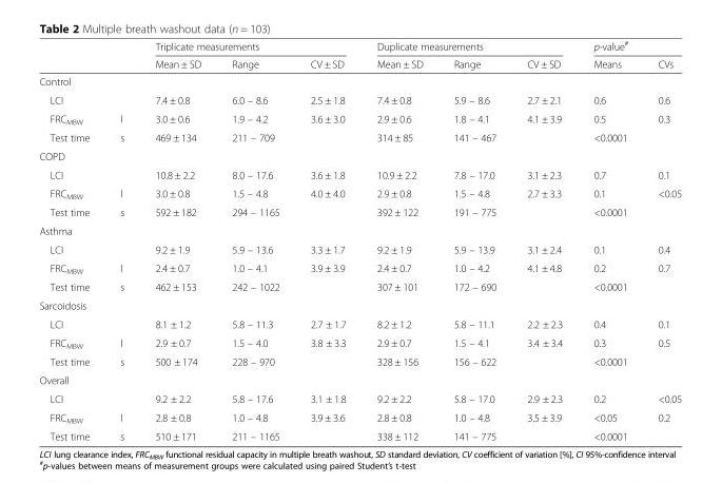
<table><thead><tr><td rowspan="2"></td><td rowspan="2"></td><td colspan="3">Triplicate measurements</td><td colspan="3">Duplicate measurements</td><td colspan="2">p-value<sup>#</sup></td></tr><tr><td>Mean ± SD</td><td>Range</td><td>CV ± SD</td><td>Mean ± SD</td><td>Range</td><td>CV ± SD</td><td>Means</td><td>CVs</td></tr></thead><tbody><tr><td colspan="10">Control</td></tr><tr><td>LCI</td><td></td><td>7.4 ± 0.8</td><td>6.0 – 8.6</td><td>2.5 ± 1.8</td><td>7.4 ± 0.8</td><td>5.9 – 8.6</td><td>2.7 ± 2.1</td><td>0.6</td><td>0.6</td></tr><tr><td>FRC<sub>MBW</sub></td><td>l</td><td>3.0 ± 0.6</td><td>1.9 – 4.2</td><td>3.6 ± 3.0</td><td>2.9 ± 0.6</td><td>1.8 – 4.1</td><td>4.1 ± 3.9</td><td>0.5</td><td>0.3</td></tr><tr><td>Test time</td><td>s</td><td>469 ± 134</td><td>211 – 709</td><td></td><td>314 ± 85</td><td>141 – 467</td><td></td><td>&lt;0.0001</td><td></td></tr><tr><td colspan="10">COPD</td></tr><tr><td>LCI</td><td></td><td>10.8 ± 2.2</td><td>8.0 – 17.6</td><td>3.6 ± 1.8</td><td>10.9 ± 2.2</td><td>7.8 – 17.0</td><td>3.1 ± 2.3</td><td>0.7</td><td>0.1</td></tr><tr><td>FRC<sub>MBW</sub></td><td>l</td><td>3.0 ± 0.8</td><td>1.5 – 4.8</td><td>4.0 ± 4.0</td><td>2.9 ± 0.8</td><td>1.5 – 4.8</td><td>2.7 ± 3.3</td><td>0.1</td><td>&lt;0.05</td></tr><tr><td>Test time</td><td>s</td><td>592 ± 182</td><td>294 – 1165</td><td></td><td>392 ± 122</td><td>191 – 775</td><td></td><td>&lt;0.0001</td><td></td></tr><tr><td colspan="10">Asthma</td></tr><tr><td>LCI</td><td></td><td>9.2 ± 1.9</td><td>5.9 – 13.6</td><td>3.3 ± 1.7</td><td>9.2 ± 1.9</td><td>5.9 – 13.9</td><td>3.1 ± 2.4</td><td>0.1</td><td>0.4</td></tr><tr><td>FRC<sub>MBW</sub></td><td>l</td><td>2.4 ± 0.7</td><td>1.0 – 4.1</td><td>3.9 ± 3.9</td><td>2.4 ± 0.7</td><td>1.0 – 4.2</td><td>4.1 ± 4.8</td><td>0.2</td><td>0.7</td></tr><tr><td>Test time</td><td>s</td><td>462 ± 153</td><td>242 – 1022</td><td></td><td>307 ± 101</td><td>172 – 690</td><td></td><td>&lt;0.0001</td><td></td></tr><tr><td colspan="10">Sarcoidosis</td></tr><tr><td>LCI</td><td></td><td>8.1 ± 1.2</td><td>5.8 – 11.3</td><td>2.7 ± 1.7</td><td>8.2 ± 1.2</td><td>5.8 – 11.1</td><td>2.2 ± 2.3</td><td>0.4</td><td>0.1</td></tr><tr><td>FRC<sub>MBW</sub></td><td>l</td><td>2.9 ± 0.7</td><td>1.5 – 4.0</td><td>3.8 ± 3.3</td><td>2.9 ± 0.7</td><td>1.5 – 4.1</td><td>3.4 ± 3.4</td><td>0.3</td><td>0.5</td></tr><tr><td>Test time</td><td>s</td><td>500 ± 174</td><td>228 – 970</td><td></td><td>328 ± 156</td><td>156 – 622</td><td></td><td>&lt;0.0001</td><td></td></tr><tr><td colspan="10">Overall</td></tr><tr><td>LCI</td><td></td><td>9.2 ± 2.2</td><td>5.8 – 17.6</td><td>3.1 ± 1.8</td><td>9.2 ± 2.2</td><td>5.8 – 17.0</td><td>2.9 ± 2.3</td><td>0.2</td><td>&lt;0.05</td></tr><tr><td>FRC<sub>MBW</sub></td><td>l</td><td>2.8 ± 0.8</td><td>1.0 – 4.8</td><td>3.9 ± 3.6</td><td>2.8 ± 0.8</td><td>1.0 – 4.8</td><td>3.5 ± 3.9</td><td>&lt;0.05</td><td>0.2</td></tr><tr><td>Test time</td><td>s</td><td>510 ± 171</td><td>211 – 1165</td><td></td><td>338 ± 112</td><td>141 – 775</td><td></td><td>&lt;0.0001</td><td></td></tr></tbody></table>